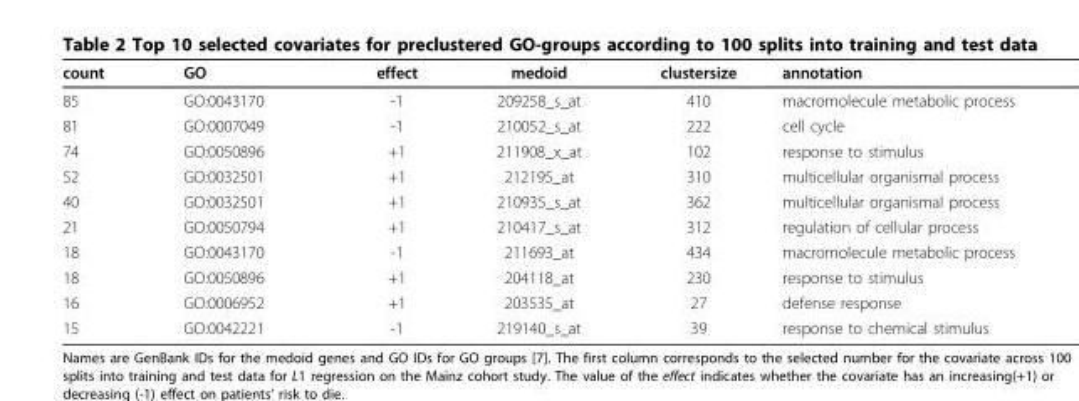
<table><thead><tr><td>count</td><td>GO</td><td>effect</td><td>medoid</td><td>clustersize</td><td>annotation</td></tr></thead><tbody><tr><td>85</td><td>GO:0043170</td><td>-1</td><td>209258_s_at</td><td>410</td><td>macromolecule metabolic process</td></tr><tr><td>81</td><td>GO:0007049</td><td>-1</td><td>210052_s_at</td><td>222</td><td>cell cycle</td></tr><tr><td>74</td><td>GO:0050896</td><td>+1</td><td>211908_x_at</td><td>102</td><td>response to stimulus</td></tr><tr><td>52</td><td>GO:0032501</td><td>+1</td><td>212195_at</td><td>310</td><td>multicellular organismal process</td></tr><tr><td>40</td><td>GO:0032501</td><td>+1</td><td>210935_s_at</td><td>362</td><td>multicellular organismal process</td></tr><tr><td>21</td><td>GO:0050794</td><td>+1</td><td>210417_s_at</td><td>312</td><td>regulation of cellular process</td></tr><tr><td>18</td><td>GO:0043170</td><td>-1</td><td>211693_at</td><td>434</td><td>macromolecule metabolic process</td></tr><tr><td>18</td><td>GO:0050896</td><td>+1</td><td>204118_at</td><td>230</td><td>response to stimulus</td></tr><tr><td>16</td><td>GO:0006952</td><td>+1</td><td>203535_at</td><td>27</td><td>defense response</td></tr><tr><td>15</td><td>GO:0042221</td><td>-1</td><td>219140_s_at</td><td>39</td><td>response to chemical stimulus</td></tr></tbody></table>